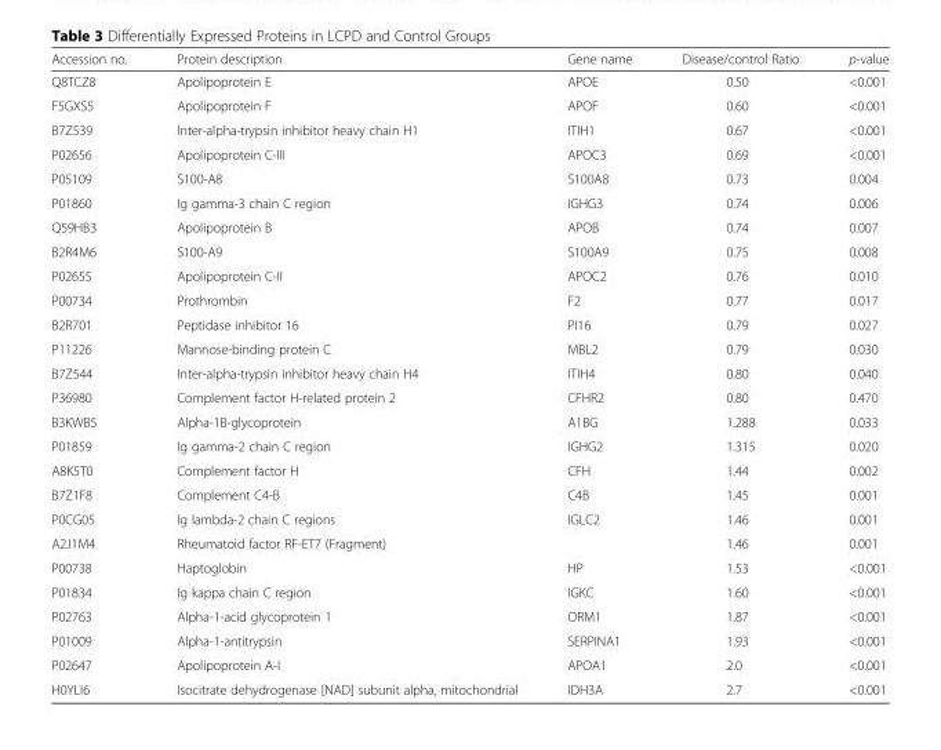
<table><thead><tr><td>Accession no.</td><td>Protein description</td><td>Gene name</td><td>Disease/control Ratio</td><td>p-value</td></tr></thead><tbody><tr><td>Q8TCZ8</td><td>Apolipoprotein E</td><td>APOE</td><td>0.50</td><td>&lt;0.001</td></tr><tr><td>F5GXS5</td><td>Apolipoprotein F</td><td>APOF</td><td>0.60</td><td>&lt;0.001</td></tr><tr><td>B7Z539</td><td>Inter-alpha-trypsin inhibitor heavy chain H1</td><td>ITIH1</td><td>0.67</td><td>&lt;0.001</td></tr><tr><td>P02656</td><td>Apolipoprotein C-III</td><td>APOC3</td><td>0.69</td><td>&lt;0.001</td></tr><tr><td>P05109</td><td>S100-A8</td><td>S100A8</td><td>0.73</td><td>0.004</td></tr><tr><td>P01860</td><td>Ig gamma-3 chain C region</td><td>IGHG3</td><td>0.74</td><td>0.006</td></tr><tr><td>Q59HB3</td><td>Apolipoprotein B</td><td>APOB</td><td>0.74</td><td>0.007</td></tr><tr><td>B2R4M6</td><td>S100-A9</td><td>S100A9</td><td>0.75</td><td>0.008</td></tr><tr><td>P02655</td><td>Apolipoprotein C-II</td><td>APOC2</td><td>0.76</td><td>0.010</td></tr><tr><td>P00734</td><td>Prothrombin</td><td>F2</td><td>0.77</td><td>0.017</td></tr><tr><td>B2R701</td><td>Peptidase inhibitor 16</td><td>PI16</td><td>0.79</td><td>0.027</td></tr><tr><td>P11226</td><td>Mannose-binding protein C</td><td>MBL2</td><td>0.79</td><td>0.030</td></tr><tr><td>B7Z544</td><td>Inter-alpha-trypsin inhibitor heavy chain H4</td><td>ITIH4</td><td>0.80</td><td>0.040</td></tr><tr><td>P36980</td><td>Complement factor H-related protein 2</td><td>CFHR2</td><td>0.80</td><td>0.470</td></tr><tr><td>B3KWB5</td><td>Alpha-1B-glycoprotein</td><td>A1BG</td><td>1.288</td><td>0.033</td></tr><tr><td>P01859</td><td>Ig gamma-2 chain C region</td><td>IGHG2</td><td>1.315</td><td>0.020</td></tr><tr><td>A8K5T0</td><td>Complement factor H</td><td>CFH</td><td>1.44</td><td>0.002</td></tr><tr><td>B7Z1F8</td><td>Complement C4-B</td><td>C4B</td><td>1.45</td><td>0.001</td></tr><tr><td>P0CG05</td><td>Ig lambda-2 chain C regions</td><td>IGLC2</td><td>1.46</td><td>0.001</td></tr><tr><td>A2J1M4</td><td>Rheumatoid factor RF-ET7 (Fragment)</td><td></td><td>1.46</td><td>0.001</td></tr><tr><td>P00738</td><td>Haptoglobin</td><td>HP</td><td>1.53</td><td>&lt;0.001</td></tr><tr><td>P01834</td><td>Ig kappa chain C region</td><td>IGKC</td><td>1.60</td><td>&lt;0.001</td></tr><tr><td>P02763</td><td>Alpha-1-acid glycoprotein 1</td><td>ORM1</td><td>1.87</td><td>&lt;0.001</td></tr><tr><td>P01009</td><td>Alpha-1-antitrypsin</td><td>SERPINA1</td><td>1.93</td><td>&lt;0.001</td></tr><tr><td>P02647</td><td>Apolipoprotein A-I</td><td>APOA1</td><td>2.0</td><td>&lt;0.001</td></tr><tr><td>H0YLI6</td><td>Isocitrate dehydrogenase [NAD] subunit alpha, mitochondrial</td><td>IDH3A</td><td>2.7</td><td>&lt;0.001</td></tr></tbody></table>